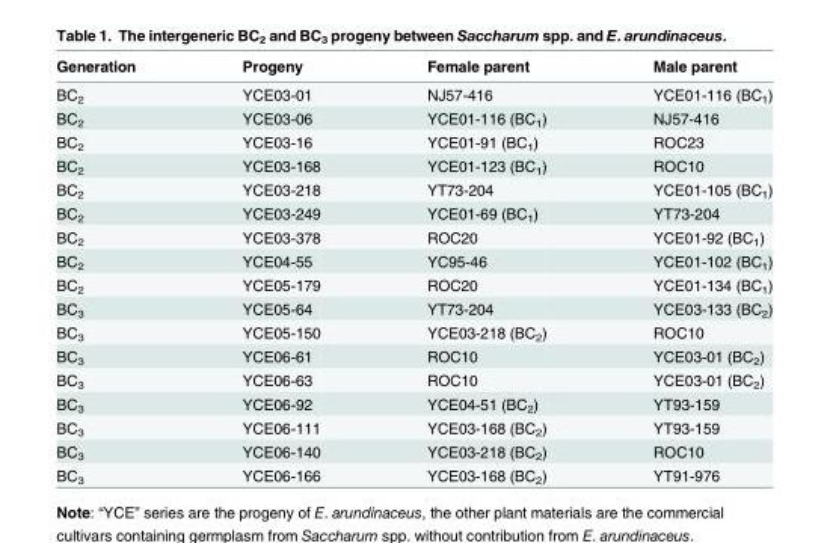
<table><thead><tr><td>Generation</td><td>Progeny</td><td>Female parent</td><td>Male parent</td></tr></thead><tbody><tr><td>BC<sub>2</sub></td><td>YCE03-01</td><td>NJ57-416</td><td>YCE01-116 (BC<sub>1</sub>)</td></tr><tr><td>BC<sub>2</sub></td><td>YCE03-06</td><td>YCE01-116 (BC<sub>1</sub>)</td><td>NJ57-416</td></tr><tr><td>BC<sub>2</sub></td><td>YCE03-16</td><td>YCE01-91 (BC<sub>1</sub>)</td><td>ROC23</td></tr><tr><td>BC<sub>2</sub></td><td>YCE03-168</td><td>YCE01-123 (BC<sub>1</sub>)</td><td>ROC10</td></tr><tr><td>BC<sub>2</sub></td><td>YCE03-218</td><td>YT73-204</td><td>YCE01-105 (BC<sub>1</sub>)</td></tr><tr><td>BC<sub>2</sub></td><td>YCE03-249</td><td>YCE01-69 (BC<sub>1</sub>)</td><td>YT73-204</td></tr><tr><td>BC<sub>2</sub></td><td>YCE03-378</td><td>ROC20</td><td>YCE01-92 (BC<sub>1</sub>)</td></tr><tr><td>BC<sub>2</sub></td><td>YCE04-55</td><td>YC95-46</td><td>YCE01-102 (BC<sub>1</sub>)</td></tr><tr><td>BC<sub>2</sub></td><td>YCE05-179</td><td>ROC20</td><td>YCE01-134 (BC<sub>1</sub>)</td></tr><tr><td>BC<sub>3</sub></td><td>YCE05-64</td><td>YT73-204</td><td>YCE03-133 (BC<sub>2</sub>)</td></tr><tr><td>BC<sub>3</sub></td><td>YCE05-150</td><td>YCE03-218 (BC<sub>2</sub>)</td><td>ROC10</td></tr><tr><td>BC<sub>3</sub></td><td>YCE06-61</td><td>ROC10</td><td>YCE03-01 (BC<sub>2</sub>)</td></tr><tr><td>BC<sub>3</sub></td><td>YCE06-63</td><td>ROC10</td><td>YCE03-01 (BC<sub>2</sub>)</td></tr><tr><td>BC<sub>3</sub></td><td>YCE06-92</td><td>YCE04-51 (BC<sub>2</sub>)</td><td>YT93-159</td></tr><tr><td>BC<sub>3</sub></td><td>YCE06-111</td><td>YCE03-168 (BC<sub>2</sub>)</td><td>YT93-159</td></tr><tr><td>BC<sub>3</sub></td><td>YCE06-140</td><td>YCE03-218 (BC<sub>2</sub>)</td><td>ROC10</td></tr><tr><td>BC<sub>3</sub></td><td>YCE06-166</td><td>YCE03-168 (BC<sub>2</sub>)</td><td>YT91-976</td></tr></tbody></table>